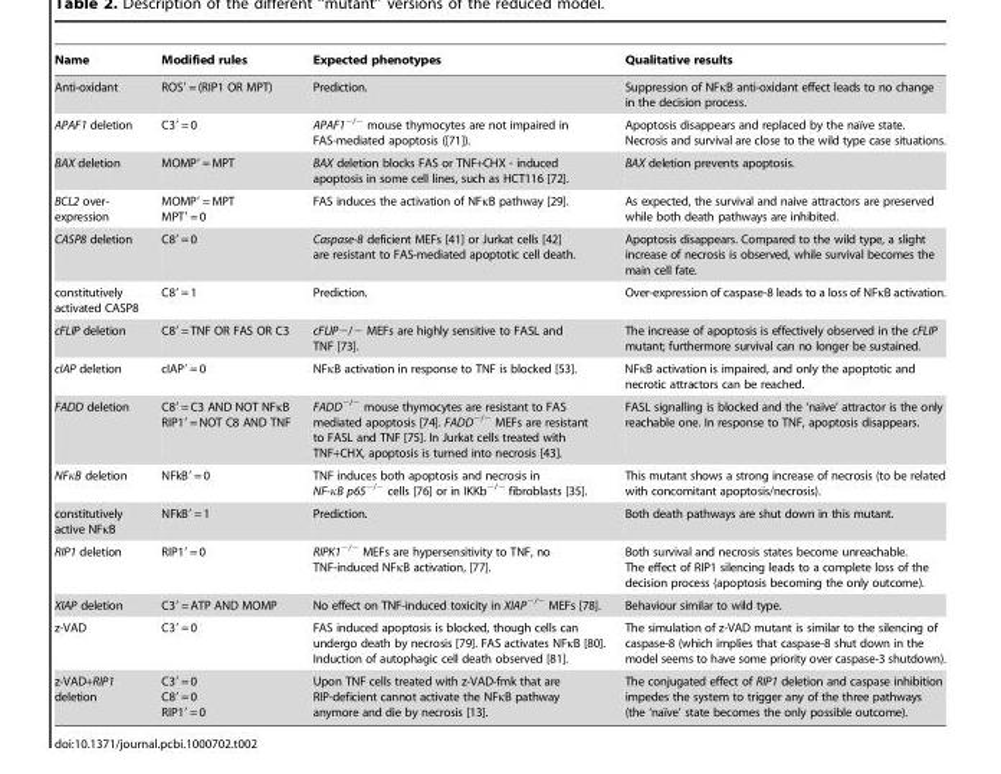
<table><thead><tr><td>Name</td><td>Modified rules</td><td>Expected phenotypes</td><td>Qualitative results</td></tr></thead><tbody><tr><td>Anti-oxidant</td><td>ROS′=(RIP1 OR MPT)</td><td>Prediction.</td><td>Suppression of NFκB anti-oxidant effect leads to no change in the decision process.</td></tr><tr><td>APAF1 deletion</td><td>C3′=0</td><td>APAF1<sup>−/−</sup> mouse thymocytes are not impaired in FAS-mediated apoptosis ([71]).</td><td>Apoptosis disappears and replaced by the naı¨ve state. Necrosis and survival are close to the wild type case situations.</td></tr><tr><td>BAX deletion</td><td>MOMP′= MPT</td><td>BAX deletion blocks FAS or TNF+CHX - induced apoptosis in some cell lines, such as HCT116 [72].</td><td>BAX deletion prevents apoptosis.</td></tr><tr><td>BCL2 over- expression</td><td>MOMP′= MPT MPT′=0</td><td>FAS induces the activation of NFκB pathway [29].</td><td>As expected, the survival and naive attractors are preserved while both death pathways are inhibited.</td></tr><tr><td>CASP8 deletion</td><td>C8′=0</td><td>Caspase-8 deficient MEFs [41] or Jurkat cells [42] are resistant to FAS-mediated apoptotic cell death.</td><td>Apoptosis disappears. Compared to the wild type, a slight increase of necrosis is observed, while survival becomes the main cell fate.</td></tr><tr><td>constitutively activated CASP8</td><td>C8′=1</td><td>Prediction.</td><td>Over-expression of caspase-8 leads to a loss of NFκB activation.</td></tr><tr><td>cFLIP deletion</td><td>C8′=TNF OR FAS OR C3</td><td>cFLIP−/− MEFs are highly sensitive to FASL and TNF [73].</td><td>The increase of apoptosis is effectively observed in the cFLIP mutant; furthermore survival can no longer be sustained.</td></tr><tr><td>cIAP deletion</td><td>cIAP′= 0</td><td>NFκB activation in response to TNF is blocked [53].</td><td>NFκB activation is impaired, and only the apoptotic and necrotic attractors can be reached.</td></tr><tr><td>FADD deletion</td><td>C8′=C3 AND NOT NFκB RIP1′=NOT C8 AND TNF</td><td>FADD<sup>−/−</sup> mouse thymocytes are resistant to FAS mediated apoptosis [74]. FADD<sup>−/−</sup> MEFs are resistant to FASL and TNF [75]. In Jurkat cells treated with TNF+CHX, apoptosis is turned into necrosis [43].</td><td>FASL signalling is blocked and the ‘naı¨ve’ attractor is the only reachable one. In response to TNF, apoptosis disappears.</td></tr><tr><td>NFκB deletion</td><td>NFkB′=0</td><td>TNF induces both apoptosis and necrosis in NF-κB p65<sup>−/−</sup> cells [76] or in IKKb<sup>−/−</sup> fibroblasts [35].</td><td>This mutant shows a strong increase of necrosis (to be related with concomitant apoptosis/necrosis).</td></tr><tr><td>constitutively active NFκB</td><td>NFkB′=1</td><td>Prediction.</td><td>Both death pathways are shut down in this mutant.</td></tr><tr><td>RIP1 deletion</td><td>RIP1′=0</td><td>RIPK1<sup>−/−</sup> MEFs are hypersensitivity to TNF, no TNF-induced NFκB activation, [77].</td><td>Both survival and necrosis states become unreachable. The effect of RIP1 silencing leads to a complete loss of the decision process (apoptosis becoming the only outcome).</td></tr><tr><td>XIAP deletion</td><td>C3′=ATP AND MOMP</td><td>No effect on TNF-induced toxicity in XIAP<sup>−/−</sup> MEFs [78].</td><td>Behaviour similar to wild type.</td></tr><tr><td>z-VAD</td><td>C3′=0</td><td>FAS induced apoptosis is blocked, though cells can undergo death by necrosis [79]. FAS activates NFκB [80]. Induction of autophagic cell death observed [81].</td><td>The simulation of z-VAD mutant is similar to the silencing of caspase-8 (which implies that caspase-8 shut down in the model seems to have some priority over caspase-3 shutdown).</td></tr><tr><td>z-VAD+RIP1 deletion</td><td>C3′=0 C8′=0 RIP1′=0</td><td>Upon TNF cells treated with z-VAD-fmk that are RIP-deficient cannot activate the NFκB pathway anymore and die by necrosis [13].</td><td>The conjugated effect of RIP1 deletion and caspase inhibition impedes the system to trigger any of the three pathways (the ‘naı¨ve’ state becomes the only possible outcome).</td></tr></tbody></table>